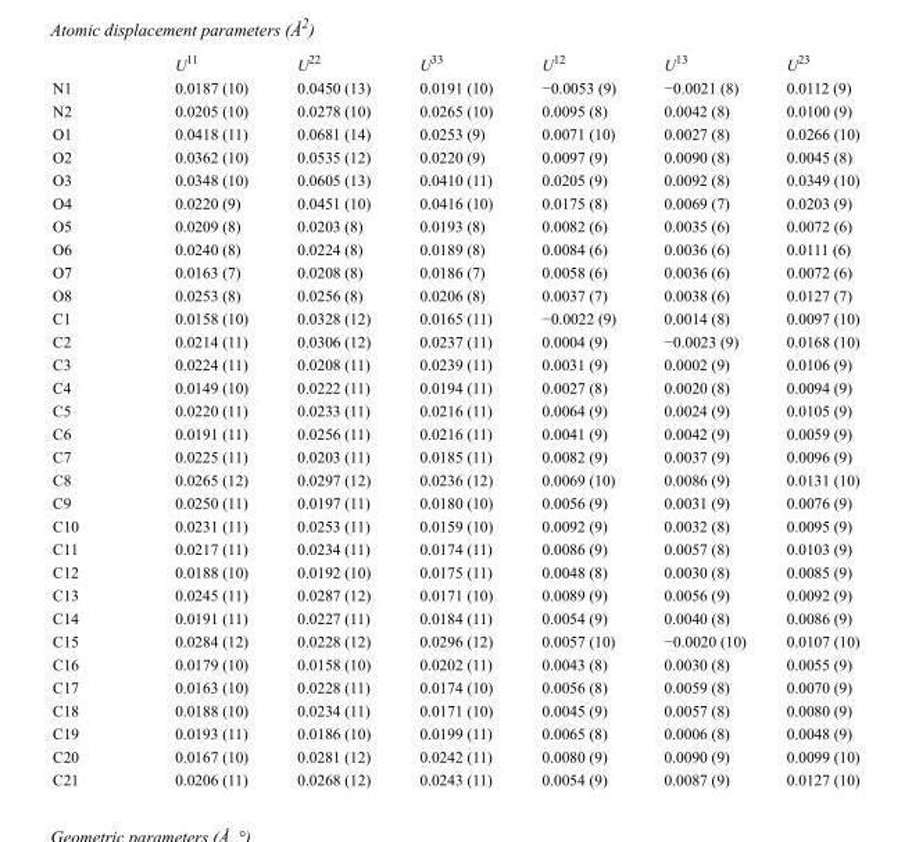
<table><thead><tr><td></td><td>U<sup>11</sup></td><td>U<sup>22</sup></td><td>U<sup>33</sup></td><td>U<sup>12</sup></td><td>U<sup>13</sup></td><td>U<sup>23</sup></td></tr></thead><tbody><tr><td>N1</td><td>0.0187 (10)</td><td>0.0450 (13)</td><td>0.0191 (10)</td><td>−0.0053 (9)</td><td>−0.0021 (8)</td><td>0.0112 (9)</td></tr><tr><td>N2</td><td>0.0205 (10)</td><td>0.0278 (10)</td><td>0.0265 (10)</td><td>0.0095 (8)</td><td>0.0042 (8)</td><td>0.0100 (9)</td></tr><tr><td>O1</td><td>0.0418 (11)</td><td>0.0681 (14)</td><td>0.0253 (9)</td><td>0.0071 (10)</td><td>0.0027 (8)</td><td>0.0266 (10)</td></tr><tr><td>O2</td><td>0.0362 (10)</td><td>0.0535 (12)</td><td>0.0220 (9)</td><td>0.0097 (9)</td><td>0.0090 (8)</td><td>0.0045 (8)</td></tr><tr><td>O3</td><td>0.0348 (10)</td><td>0.0605 (13)</td><td>0.0410 (11)</td><td>0.0205 (9)</td><td>0.0092 (8)</td><td>0.0349 (10)</td></tr><tr><td>O4</td><td>0.0220 (9)</td><td>0.0451 (10)</td><td>0.0416 (10)</td><td>0.0175 (8)</td><td>0.0069 (7)</td><td>0.0203 (9)</td></tr><tr><td>O5</td><td>0.0209 (8)</td><td>0.0203 (8)</td><td>0.0193 (8)</td><td>0.0082 (6)</td><td>0.0035 (6)</td><td>0.0072 (6)</td></tr><tr><td>O6</td><td>0.0240 (8)</td><td>0.0224 (8)</td><td>0.0189 (8)</td><td>0.0084 (6)</td><td>0.0036 (6)</td><td>0.0111 (6)</td></tr><tr><td>O7</td><td>0.0163 (7)</td><td>0.0208 (8)</td><td>0.0186 (7)</td><td>0.0058 (6)</td><td>0.0036 (6)</td><td>0.0072 (6)</td></tr><tr><td>O8</td><td>0.0253 (8)</td><td>0.0256 (8)</td><td>0.0206 (8)</td><td>0.0037 (7)</td><td>0.0038 (6)</td><td>0.0127 (7)</td></tr><tr><td>C1</td><td>0.0158 (10)</td><td>0.0328 (12)</td><td>0.0165 (11)</td><td>−0.0022 (9)</td><td>0.0014 (8)</td><td>0.0097 (10)</td></tr><tr><td>C2</td><td>0.0214 (11)</td><td>0.0306 (12)</td><td>0.0237 (11)</td><td>0.0004 (9)</td><td>−0.0023 (9)</td><td>0.0168 (10)</td></tr><tr><td>C3</td><td>0.0224 (11)</td><td>0.0208 (11)</td><td>0.0239 (11)</td><td>0.0031 (9)</td><td>0.0002 (9)</td><td>0.0106 (9)</td></tr><tr><td>C4</td><td>0.0149 (10)</td><td>0.0222 (11)</td><td>0.0194 (11)</td><td>0.0027 (8)</td><td>0.0020 (8)</td><td>0.0094 (9)</td></tr><tr><td>C5</td><td>0.0220 (11)</td><td>0.0233 (11)</td><td>0.0216 (11)</td><td>0.0064 (9)</td><td>0.0024 (9)</td><td>0.0105 (9)</td></tr><tr><td>C6</td><td>0.0191 (11)</td><td>0.0256 (11)</td><td>0.0216 (11)</td><td>0.0041 (9)</td><td>0.0042 (9)</td><td>0.0059 (9)</td></tr><tr><td>C7</td><td>0.0225 (11)</td><td>0.0203 (11)</td><td>0.0185 (11)</td><td>0.0082 (9)</td><td>0.0037 (9)</td><td>0.0096 (9)</td></tr><tr><td>C8</td><td>0.0265 (12)</td><td>0.0297 (12)</td><td>0.0236 (12)</td><td>0.0069 (10)</td><td>0.0086 (9)</td><td>0.0131 (10)</td></tr><tr><td>C9</td><td>0.0250 (11)</td><td>0.0197 (11)</td><td>0.0180 (10)</td><td>0.0056 (9)</td><td>0.0031 (9)</td><td>0.0076 (9)</td></tr><tr><td>C10</td><td>0.0231 (11)</td><td>0.0253 (11)</td><td>0.0159 (10)</td><td>0.0092 (9)</td><td>0.0032 (8)</td><td>0.0095 (9)</td></tr><tr><td>C11</td><td>0.0217 (11)</td><td>0.0234 (11)</td><td>0.0174 (11)</td><td>0.0086 (9)</td><td>0.0057 (8)</td><td>0.0103 (9)</td></tr><tr><td>C12</td><td>0.0188 (10)</td><td>0.0192 (10)</td><td>0.0175 (11)</td><td>0.0048 (8)</td><td>0.0030 (8)</td><td>0.0085 (9)</td></tr><tr><td>C13</td><td>0.0245 (11)</td><td>0.0287 (12)</td><td>0.0171 (10)</td><td>0.0089 (9)</td><td>0.0056 (9)</td><td>0.0092 (9)</td></tr><tr><td>C14</td><td>0.0191 (11)</td><td>0.0227 (11)</td><td>0.0184 (11)</td><td>0.0054 (9)</td><td>0.0040 (8)</td><td>0.0086 (9)</td></tr><tr><td>C15</td><td>0.0284 (12)</td><td>0.0228 (12)</td><td>0.0296 (12)</td><td>0.0057 (10)</td><td>−0.0020 (10)</td><td>0.0107 (10)</td></tr><tr><td>C16</td><td>0.0179 (10)</td><td>0.0158 (10)</td><td>0.0202 (11)</td><td>0.0043 (8)</td><td>0.0030 (8)</td><td>0.0055 (9)</td></tr><tr><td>C17</td><td>0.0163 (10)</td><td>0.0228 (11)</td><td>0.0174 (10)</td><td>0.0056 (8)</td><td>0.0059 (8)</td><td>0.0070 (9)</td></tr><tr><td>C18</td><td>0.0188 (10)</td><td>0.0234 (11)</td><td>0.0171 (10)</td><td>0.0045 (9)</td><td>0.0057 (8)</td><td>0.0080 (9)</td></tr><tr><td>C19</td><td>0.0193 (11)</td><td>0.0186 (10)</td><td>0.0199 (11)</td><td>0.0065 (8)</td><td>0.0006 (8)</td><td>0.0048 (9)</td></tr><tr><td>C20</td><td>0.0167 (10)</td><td>0.0281 (12)</td><td>0.0242 (11)</td><td>0.0080 (9)</td><td>0.0090 (9)</td><td>0.0099 (10)</td></tr><tr><td>C21</td><td>0.0206 (11)</td><td>0.0268 (12)</td><td>0.0243 (11)</td><td>0.0054 (9)</td><td>0.0087 (9)</td><td>0.0127 (10)</td></tr></tbody></table>